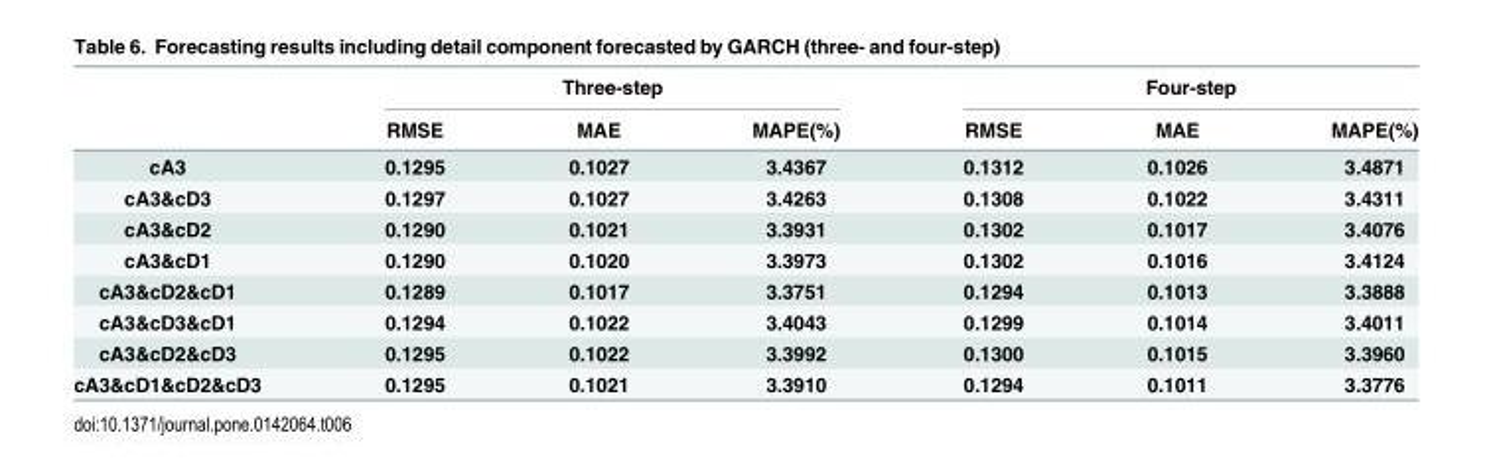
<table><thead><tr><td rowspan="2"></td><td colspan="3">Three-step</td><td colspan="3">Four-step</td></tr><tr><td>RMSE</td><td>MAE</td><td>MAPE(%)</td><td>RMSE</td><td>MAE</td><td>MAPE(%)</td></tr></thead><tbody><tr><td>cA3</td><td>0.1295</td><td>0.1027</td><td>3.4367</td><td>0.1312</td><td>0.1026</td><td>3.4871</td></tr><tr><td>cA3&amp;cD3</td><td>0.1297</td><td>0.1027</td><td>3.4263</td><td>0.1308</td><td>0.1022</td><td>3.4311</td></tr><tr><td>cA3&amp;cD2</td><td>0.1290</td><td>0.1021</td><td>3.3931</td><td>0.1302</td><td>0.1017</td><td>3.4076</td></tr><tr><td>cA3&amp;cD1</td><td>0.1290</td><td>0.1020</td><td>3.3973</td><td>0.1302</td><td>0.1016</td><td>3.4124</td></tr><tr><td>cA3&amp;cD2&amp;cD1</td><td>0.1289</td><td>0.1017</td><td>3.3751</td><td>0.1294</td><td>0.1013</td><td>3.3888</td></tr><tr><td>cA3&amp;cD3&amp;cD1</td><td>0.1294</td><td>0.1022</td><td>3.4043</td><td>0.1299</td><td>0.1014</td><td>3.4011</td></tr><tr><td>cA3&amp;cD2&amp;cD3</td><td>0.1295</td><td>0.1022</td><td>3.3992</td><td>0.1300</td><td>0.1015</td><td>3.3960</td></tr><tr><td>cA3&amp;cD1&amp;cD2&amp;cD3</td><td>0.1295</td><td>0.1021</td><td>3.3910</td><td>0.1294</td><td>0.1011</td><td>3.3776</td></tr></tbody></table>